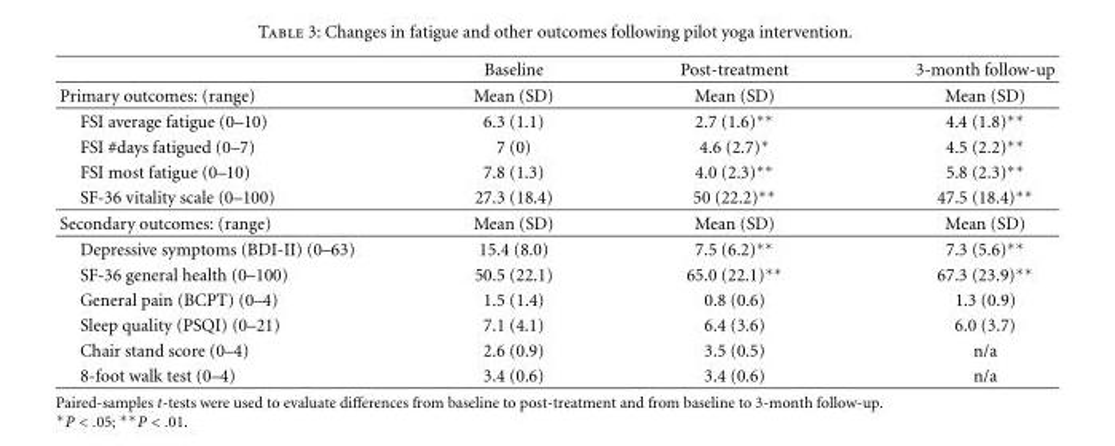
<table><thead><tr><td></td><td>Baseline</td><td>Post-treatment</td><td>3-month follow-up</td></tr></thead><tbody><tr><td>Primary outcomes: (range)</td><td>Mean (SD)</td><td>Mean (SD)</td><td>Mean (SD)</td></tr><tr><td>FSI average fatigue (0–10)</td><td>6.3 (1.1)</td><td>2.7 (1.6)∗∗</td><td>4.4 (1.8)∗∗</td></tr><tr><td>FSI #days fatigued (0–7)</td><td>7 (0)</td><td>4.6 (2.7)∗</td><td>4.5 (2.2)∗∗</td></tr><tr><td>FSI most fatigue (0–10)</td><td>7.8 (1.3)</td><td>4.0 (2.3)∗∗</td><td>5.8 (2.3)∗∗</td></tr><tr><td>SF-36 vitality scale (0–100)</td><td>27.3 (18.4)</td><td>50 (22.2)∗∗</td><td>47.5 (18.4)∗∗</td></tr><tr><td>Secondary outcomes: (range)</td><td>Mean (SD)</td><td>Mean (SD)</td><td>Mean (SD)</td></tr><tr><td>Depressive symptoms (BDI-II) (0–63)</td><td>15.4 (8.0)</td><td>7.5 (6.2)∗∗</td><td>7.3 (5.6)∗∗</td></tr><tr><td>SF-36 general health (0–100)</td><td>50.5 (22.1)</td><td>65.0 (22.1)∗∗</td><td>67.3 (23.9)∗∗</td></tr><tr><td>General pain (BCPT) (0–4)</td><td>1.5 (1.4)</td><td>0.8 (0.6)</td><td>1.3 (0.9)</td></tr><tr><td>Sleep quality (PSQI) (0–21)</td><td>7.1 (4.1)</td><td>6.4 (3.6)</td><td>6.0 (3.7)</td></tr><tr><td>Chair stand score (0–4)</td><td>2.6 (0.9)</td><td>3.5 (0.5)</td><td>n/a</td></tr><tr><td>8-foot walk test (0–4)</td><td>3.4 (0.6)</td><td>3.4 (0.6)</td><td>n/a</td></tr></tbody></table>